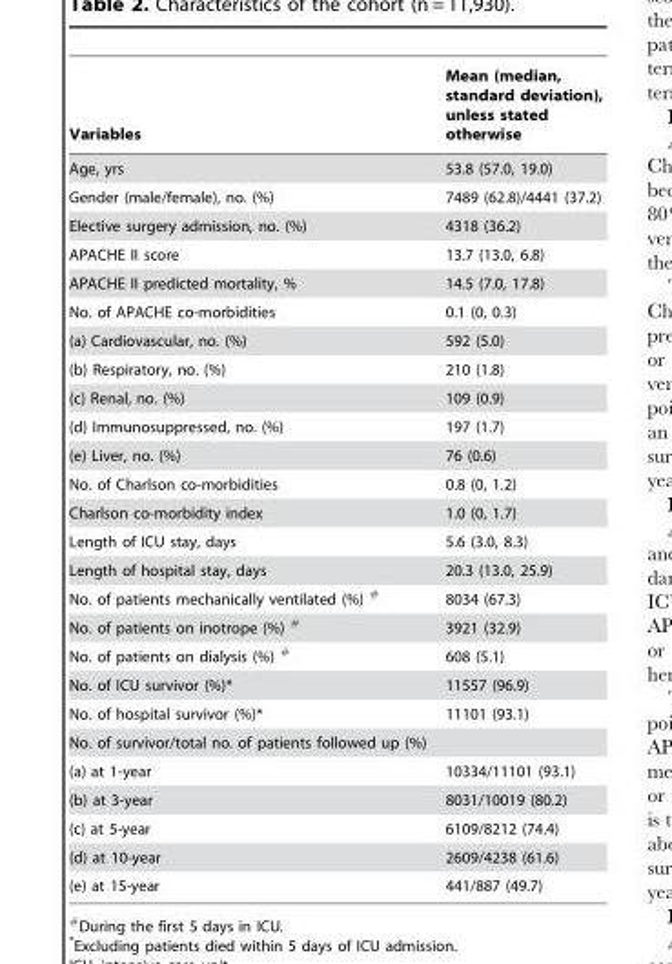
<table><thead><tr><td>Variables</td><td>Mean (median, standard deviation), unless stated otherwise</td></tr></thead><tbody><tr><td>Age, yrs</td><td>53.8 (57.0, 19.0)</td></tr><tr><td>Gender (male/female), no. (%)</td><td>7489 (62.8)/4441 (37.2)</td></tr><tr><td>Elective surgery admission, no. (%)</td><td>4318 (36.2)</td></tr><tr><td>APACHE II score</td><td>13.7 (13.0, 6.8)</td></tr><tr><td>APACHE II predicted mortality, %</td><td>14.5 (7.0, 17.8)</td></tr><tr><td>No. of APACHE co-morbidities</td><td>0.1 (0, 0.3)</td></tr><tr><td>(a) Cardiovascular, no. (%)</td><td>592 (5.0)</td></tr><tr><td>(b) Respiratory, no. (%)</td><td>210 (1.8)</td></tr><tr><td>(c) Renal, no. (%)</td><td>109 (0.9)</td></tr><tr><td>(d) Immunosuppressed, no. (%)</td><td>197 (1.7)</td></tr><tr><td>(e) Liver, no. (%)</td><td>76 (0.6)</td></tr><tr><td>No. of Charlson co-morbidities</td><td>0.8 (0, 1.2)</td></tr><tr><td>Charlson co-morbidity index</td><td>1.0 (0, 1.7)</td></tr><tr><td>Length of ICU stay, days</td><td>5.6 (3.0, 8.3)</td></tr><tr><td>Length of hospital stay, days</td><td>20.3 (13.0, 25.9)</td></tr><tr><td>No. of patients mechanically ventilated (%) #</td><td>8034 (67.3)</td></tr><tr><td>No. of patients on inotrope (%) #</td><td>3921 (32.9)</td></tr><tr><td>No. of patients on dialysis (%) #</td><td>608 (5.1)</td></tr><tr><td>No. of ICU survivor (%)*</td><td>11557 (96.9)</td></tr><tr><td>No. of hospital survivor (%)*</td><td>11101 (93.1)</td></tr><tr><td colspan="2">No. of survivor/total no. of patients followed up (%)</td></tr><tr><td>(a) at 1-year</td><td>10334/11101 (93.1)</td></tr><tr><td>(b) at 3-year</td><td>8031/10019 (80.2)</td></tr><tr><td>(c) at 5-year</td><td>6109/8212 (74.4)</td></tr><tr><td>(d) at 10-year</td><td>2609/4238 (61.6)</td></tr><tr><td>(e) at 15-year</td><td>441/887 (49.7)</td></tr></tbody></table>